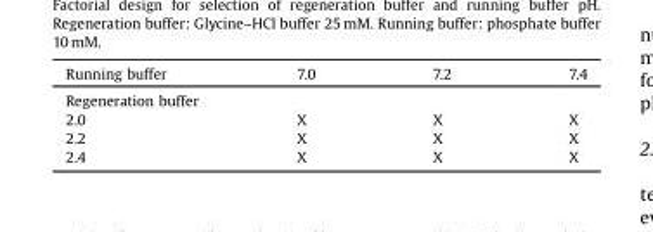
<table><thead><tr><td>Running buffer</td><td>7.0</td><td>7.2</td><td>7.4</td></tr></thead><tbody><tr><td colspan="4">Regeneration buffer</td></tr><tr><td>2.0</td><td>X</td><td>X</td><td>X</td></tr><tr><td>2.2</td><td>X</td><td>X</td><td>X</td></tr><tr><td>2.4</td><td>X</td><td>X</td><td>X</td></tr></tbody></table>